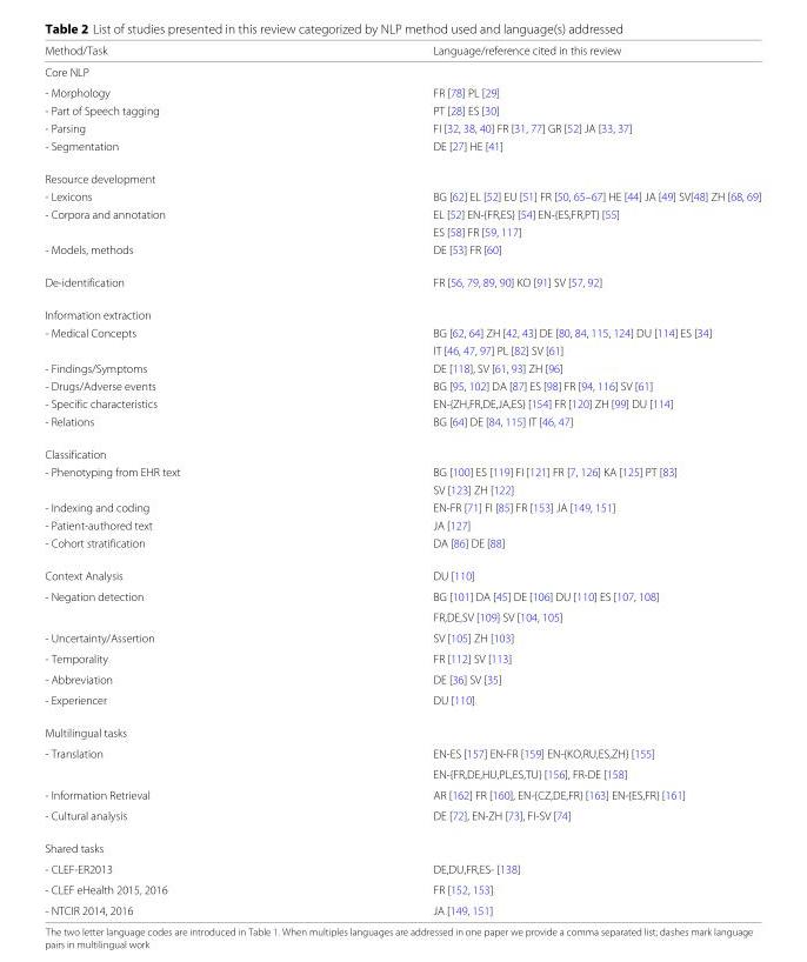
<table><thead><tr><td>Method/Task</td><td>Language/reference cited in this review</td></tr></thead><tbody><tr><td colspan="2">Core NLP</td></tr><tr><td>- Morphology</td><td>FR [78] PL [29]</td></tr><tr><td>- Part of Speech tagging</td><td>PT [28] ES [30]</td></tr><tr><td>- Parsing</td><td>FI [32, 38, 40] FR [31, 77] GR [52] JA [33, 37]</td></tr><tr><td>- Segmentation</td><td>DE [27] HE [41]</td></tr><tr><td colspan="2">Resource development</td></tr><tr><td>- Lexicons</td><td>BG [62] EL [52] EU [51] FR [50, 65–67] HE [44] JA [49] SV[48] ZH [68, 69]</td></tr><tr><td rowspan="2">- Corpora and annotation</td><td>EL [52] EN-{FR,ES} [54] EN-{ES,FR,PT} [55]</td></tr><tr><td>ES [58] FR [59, 117]</td></tr><tr><td>- Models, methods</td><td>DE [53] FR [60]</td></tr><tr><td>De-identification</td><td>FR [56, 79, 89, 90] KO [91] SV [57, 92]</td></tr><tr><td colspan="2">Information extraction</td></tr><tr><td rowspan="2">- Medical Concepts</td><td>BG [62, 64] ZH [42, 43] DE [80, 84, 115, 124] DU [114] ES [34]</td></tr><tr><td>IT [46, 47, 97] PL [82] SV [61]</td></tr><tr><td>- Findings/Symptoms</td><td>DE [118], SV [61, 93] ZH [96]</td></tr><tr><td>- Drugs/Adverse events</td><td>BG [95, 102] DA [87] ES [98] FR [94, 116] SV [61]</td></tr><tr><td>- Specific characteristics</td><td>EN-{ZH,FR,DE,JA,ES} [154] FR [120] ZH [99] DU [114]</td></tr><tr><td>- Relations</td><td>BG [64] DE [84, 115] IT [46, 47]</td></tr><tr><td colspan="2">Classification</td></tr><tr><td rowspan="2">- Phenotyping from EHR text</td><td>BG [100] ES [119] FI [121] FR [7, 126] KA [125] PT [83]</td></tr><tr><td>SV [123] ZH [122]</td></tr><tr><td>- Indexing and coding</td><td>EN-FR [71] FI [85] FR [153] JA [149, 151]</td></tr><tr><td>- Patient-authored text</td><td>JA [127]</td></tr><tr><td>- Cohort stratification</td><td>DA [86] DE [88]</td></tr><tr><td>Context Analysis</td><td>DU [110]</td></tr><tr><td rowspan="2">- Negation detection</td><td>BG [101] DA [45] DE [106] DU [110] ES [107, 108]</td></tr><tr><td>FR,DE,SV [109] SV [104, 105]</td></tr><tr><td>- Uncertainty/Assertion</td><td>SV [105] ZH [103]</td></tr><tr><td>- Temporality</td><td>FR [112] SV [113]</td></tr><tr><td>- Abbreviation</td><td>DE [36] SV [35]</td></tr><tr><td>- Experiencer</td><td>DU [110]</td></tr><tr><td colspan="2">Multilingual tasks</td></tr><tr><td rowspan="2">- Translation</td><td>EN-ES [157] EN-FR [159] EN-{KO,RU,ES,ZH} [155]</td></tr><tr><td>EN-{FR,DE,HU,PL,ES,TU} [156], FR-DE [158]</td></tr><tr><td>- Information Retrieval</td><td>AR [162] FR [160], EN-{CZ,DE,FR} [163] EN-{ES,FR} [161]</td></tr><tr><td>- Cultural analysis</td><td>DE [72], EN-ZH [73], FI-SV [74]</td></tr><tr><td colspan="2">Shared tasks</td></tr><tr><td>- CLEF-ER2013</td><td>DE,DU,FR,ES- [138]</td></tr><tr><td>- CLEF eHealth 2015, 2016</td><td>FR [152, 153]</td></tr><tr><td>- NTCIR 2014, 2016</td><td>JA [149, 151]</td></tr></tbody></table>